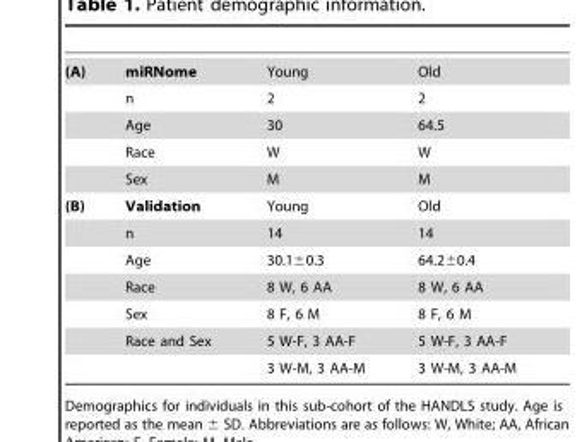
<table><tbody><tr><td rowspan="5">(A)</td><td>miRNome</td><td>Young</td><td>Old</td></tr><tr><td>n</td><td>2</td><td>2</td></tr><tr><td>Age</td><td>30</td><td>64.5</td></tr><tr><td>Race</td><td>W</td><td>W</td></tr><tr><td>Sex</td><td>M</td><td>M</td></tr><tr><td rowspan="7">(B)</td><td>Validation</td><td>Young</td><td>Old</td></tr><tr><td>n</td><td>14</td><td>14</td></tr><tr><td>Age</td><td>30.1±0.3</td><td>64.2±0.4</td></tr><tr><td>Race</td><td>8 W, 6 AA</td><td>8 W, 6 AA</td></tr><tr><td>Sex</td><td>8 F, 6 M</td><td>8 F, 6 M</td></tr><tr><td>Race and Sex</td><td>5 W-F, 3 AA-F</td><td>5 W-F, 3 AA-F</td></tr><tr><td></td><td>3 W-M, 3 AA-M</td><td>3 W-M, 3 AA-M</td></tr></tbody></table>